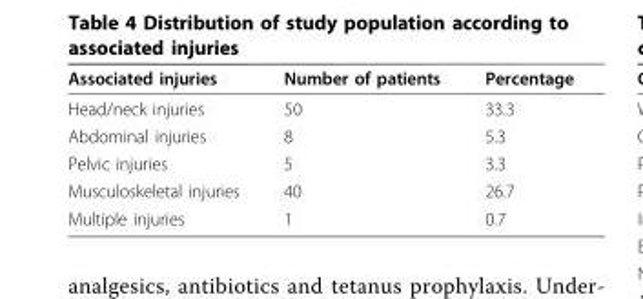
<table><thead><tr><td>Associated injuries</td><td>Number of patients</td><td>Percentage</td></tr></thead><tbody><tr><td>Head/neck injuries</td><td>50</td><td>33.3</td></tr><tr><td>Abdominal injuries</td><td>8</td><td>5.3</td></tr><tr><td>Pelvic injuries</td><td>5</td><td>3.3</td></tr><tr><td>Musculoskeletal injuries</td><td>40</td><td>26.7</td></tr><tr><td>Multiple injuries</td><td>1</td><td>0.7</td></tr></tbody></table>